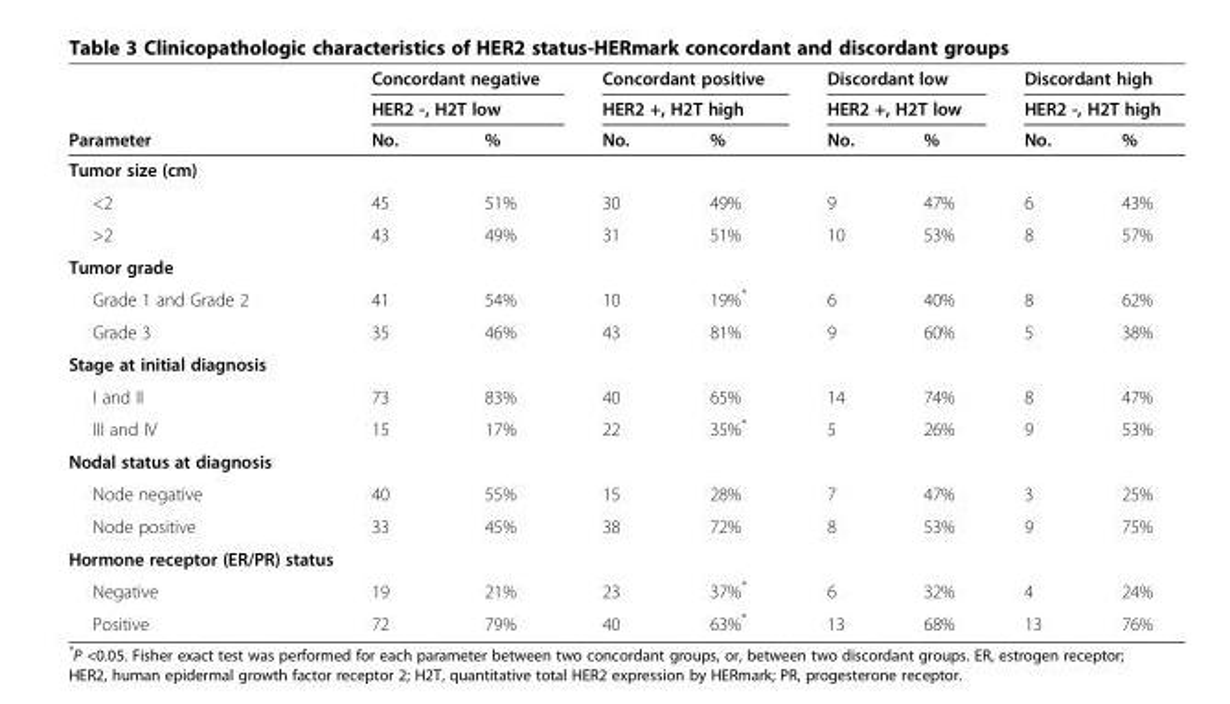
<table><thead><tr><td rowspan="3">Parameter</td><td rowspan="2" colspan="2">Concordant negative HER2 -, H2T low</td><td rowspan="2" colspan="2">Concordant positive HER2 +, H2T high</td><td rowspan="2" colspan="2">Discordant low HER2 +, H2T low</td><td rowspan="2" colspan="2">Discordant high HER2 -, H2T high</td></tr><tr></tr><tr><td>No.</td><td>%</td><td>No.</td><td>%</td><td>No.</td><td>%</td><td>No.</td><td>%</td></tr></thead><tbody><tr><td colspan="9">Tumor size (cm)</td></tr><tr><td>&lt;2</td><td>45</td><td>51%</td><td>30</td><td>49%</td><td>9</td><td>47%</td><td>6</td><td>43%</td></tr><tr><td>&gt;2</td><td>43</td><td>49%</td><td>31</td><td>51%</td><td>10</td><td>53%</td><td>8</td><td>57%</td></tr><tr><td colspan="9">Tumor grade</td></tr><tr><td>Grade 1 and Grade 2</td><td>41</td><td>54%</td><td>10</td><td>19%*</td><td>6</td><td>40%</td><td>8</td><td>62%</td></tr><tr><td>Grade 3</td><td>35</td><td>46%</td><td>43</td><td>81%</td><td>9</td><td>60%</td><td>5</td><td>38%</td></tr><tr><td colspan="9">Stage at initial diagnosis</td></tr><tr><td>I and II</td><td>73</td><td>83%</td><td>40</td><td>65%</td><td>14</td><td>74%</td><td>8</td><td>47%</td></tr><tr><td>III and IV</td><td>15</td><td>17%</td><td>22</td><td>35%*</td><td>5</td><td>26%</td><td>9</td><td>53%</td></tr><tr><td colspan="9">Nodal status at diagnosis</td></tr><tr><td>Node negative</td><td>40</td><td>55%</td><td>15</td><td>28%</td><td>7</td><td>47%</td><td>3</td><td>25%</td></tr><tr><td>Node positive</td><td>33</td><td>45%</td><td>38</td><td>72%</td><td>8</td><td>53%</td><td>9</td><td>75%</td></tr><tr><td colspan="9">Hormone receptor (ER/PR) status</td></tr><tr><td>Negative</td><td>19</td><td>21%</td><td>23</td><td>37%*</td><td>6</td><td>32%</td><td>4</td><td>24%</td></tr><tr><td>Positive</td><td>72</td><td>79%</td><td>40</td><td>63%*</td><td>13</td><td>68%</td><td>13</td><td>76%</td></tr></tbody></table>